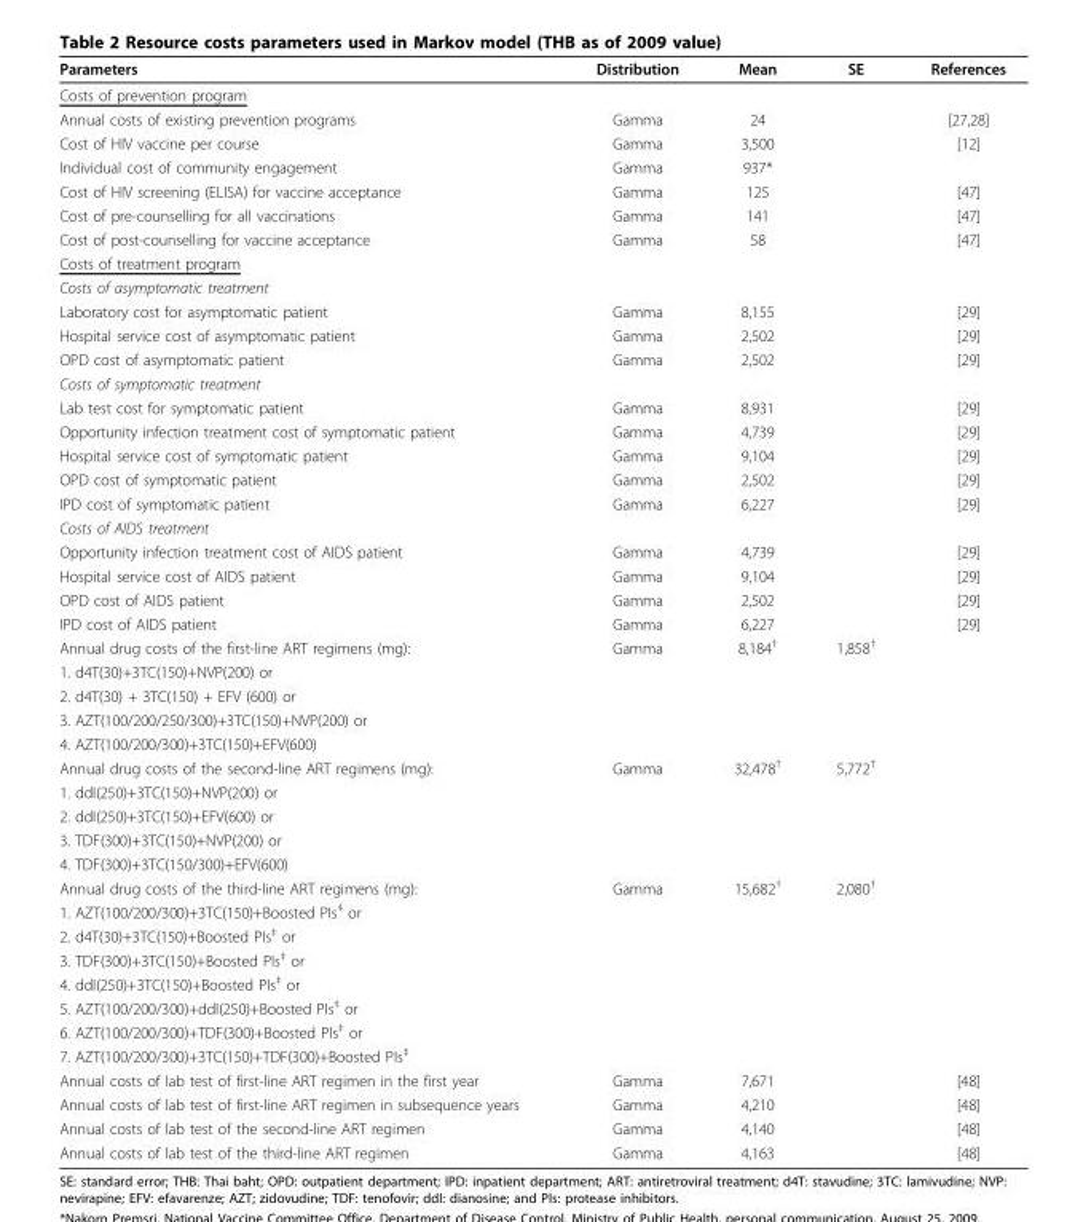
<table><thead><tr><td>Parameters</td><td>Distribution</td><td>Mean</td><td>SE</td><td>References</td></tr></thead><tbody><tr><td colspan="5">Costs of prevention program</td></tr><tr><td>Annual costs of existing prevention programs</td><td>Gamma</td><td>24</td><td></td><td>[27,28]</td></tr><tr><td>Cost of HIV vaccine per course</td><td>Gamma</td><td>3,500</td><td></td><td>[12]</td></tr><tr><td>Individual cost of community engagement</td><td>Gamma</td><td>937*</td><td></td><td></td></tr><tr><td>Cost of HIV screening (ELISA) for vaccine acceptance</td><td>Gamma</td><td>125</td><td></td><td>[47]</td></tr><tr><td>Cost of pre-counselling for all vaccinations</td><td>Gamma</td><td>141</td><td></td><td>[47]</td></tr><tr><td>Cost of post-counselling for vaccine acceptance</td><td>Gamma</td><td>58</td><td></td><td>[47]</td></tr><tr><td colspan="5">Costs of treatment program</td></tr><tr><td colspan="5">Costs of asymptomatic treatment</td></tr><tr><td>Laboratory cost for asymptomatic patient</td><td>Gamma</td><td>8,155</td><td></td><td>[29]</td></tr><tr><td>Hospital service cost of asymptomatic patient</td><td>Gamma</td><td>2,502</td><td></td><td>[29]</td></tr><tr><td>OPD cost of asymptomatic patient</td><td>Gamma</td><td>2,502</td><td></td><td>[29]</td></tr><tr><td colspan="5">Costs of symptomatic treatment</td></tr><tr><td>Lab test cost for symptomatic patient</td><td>Gamma</td><td>8,931</td><td></td><td>[29]</td></tr><tr><td>Opportunity infection treatment cost of symptomatic patient</td><td>Gamma</td><td>4,739</td><td></td><td>[29]</td></tr><tr><td>Hospital service cost of symptomatic patient</td><td>Gamma</td><td>9,104</td><td></td><td>[29]</td></tr><tr><td>OPD cost of symptomatic patient</td><td>Gamma</td><td>2,502</td><td></td><td>[29]</td></tr><tr><td>IPD cost of symptomatic patient</td><td>Gamma</td><td>6,227</td><td></td><td>[29]</td></tr><tr><td colspan="5">Costs of AIDS treatment</td></tr><tr><td>Opportunity infection treatment cost of AIDS patient</td><td>Gamma</td><td>4,739</td><td></td><td>[29]</td></tr><tr><td>Hospital service cost of AIDS patient</td><td>Gamma</td><td>9,104</td><td></td><td>[29]</td></tr><tr><td>OPD cost of AIDS patient</td><td>Gamma</td><td>2,502</td><td></td><td>[29]</td></tr><tr><td>IPD cost of AIDS patient</td><td>Gamma</td><td>6,227</td><td></td><td>[29]</td></tr><tr><td>Annual drug costs of the first-line ART regimens (mg):</td><td>Gamma</td><td>8,184<sup>†</sup></td><td>1,858<sup>†</sup></td><td></td></tr><tr><td colspan="5">1. d4T(30)+3TC(150)+NVP(200) or</td></tr><tr><td colspan="5">2. d4T(30) + 3TC(150) + EFV (600) or</td></tr><tr><td colspan="5">3. AZT(100/200/250/300)+3TC(150)+NVP(200) or</td></tr><tr><td colspan="5">4. AZT(100/200/300)+3TC(150)+EFV(600)</td></tr><tr><td>Annual drug costs of the second-line ART regimens (mg):</td><td>Gamma</td><td>32,478<sup>†</sup></td><td>5,772<sup>†</sup></td><td></td></tr><tr><td colspan="5">1. ddI(250)+3TC(150)+NVP(200) or</td></tr><tr><td colspan="5">2. ddI(250)+3TC(150)+EFV(600) or</td></tr><tr><td colspan="5">3. TDF(300)+3TC(150)+NVP(200) or</td></tr><tr><td colspan="5">4. TDF(300)+3TC(150/300)+EFV(600)</td></tr><tr><td>Annual drug costs of the third-line ART regimens (mg):</td><td>Gamma</td><td>15,682<sup>†</sup></td><td>2,080<sup>†</sup></td><td></td></tr><tr><td colspan="5">1. AZT(100/200/300)+3TC(150)+Boosted PIs<sup>‡</sup> or</td></tr><tr><td colspan="5">2. d4T(30)+3TC(150)+Boosted PIs<sup>‡</sup> or</td></tr><tr><td colspan="5">3. TDF(300)+3TC(150)+Boosted PIs<sup>‡</sup> or</td></tr><tr><td colspan="5">4. ddI(250)+3TC(150)+Boosted PIs<sup>‡</sup> or</td></tr><tr><td colspan="5">5. AZT(100/200/300)+ddI(250)+Boosted PIs<sup>‡</sup> or</td></tr><tr><td colspan="5">6. AZT(100/200/300)+TDF(300)+Boosted PIs<sup>‡</sup> or</td></tr><tr><td colspan="5">7. AZT(100/200/300)+3TC(150)+TDF(300)+Boosted PIs<sup>‡</sup></td></tr><tr><td>Annual costs of lab test of first-line ART regimen in the first year</td><td>Gamma</td><td>7,671</td><td></td><td>[48]</td></tr><tr><td>Annual costs of lab test of first-line ART regimen in subsequence years</td><td>Gamma</td><td>4,210</td><td></td><td>[48]</td></tr><tr><td>Annual costs of lab test of the second-line ART regimen</td><td>Gamma</td><td>4,140</td><td></td><td>[48]</td></tr><tr><td>Annual costs of lab test of the third-line ART regimen</td><td>Gamma</td><td>4,163</td><td></td><td>[48]</td></tr></tbody></table>